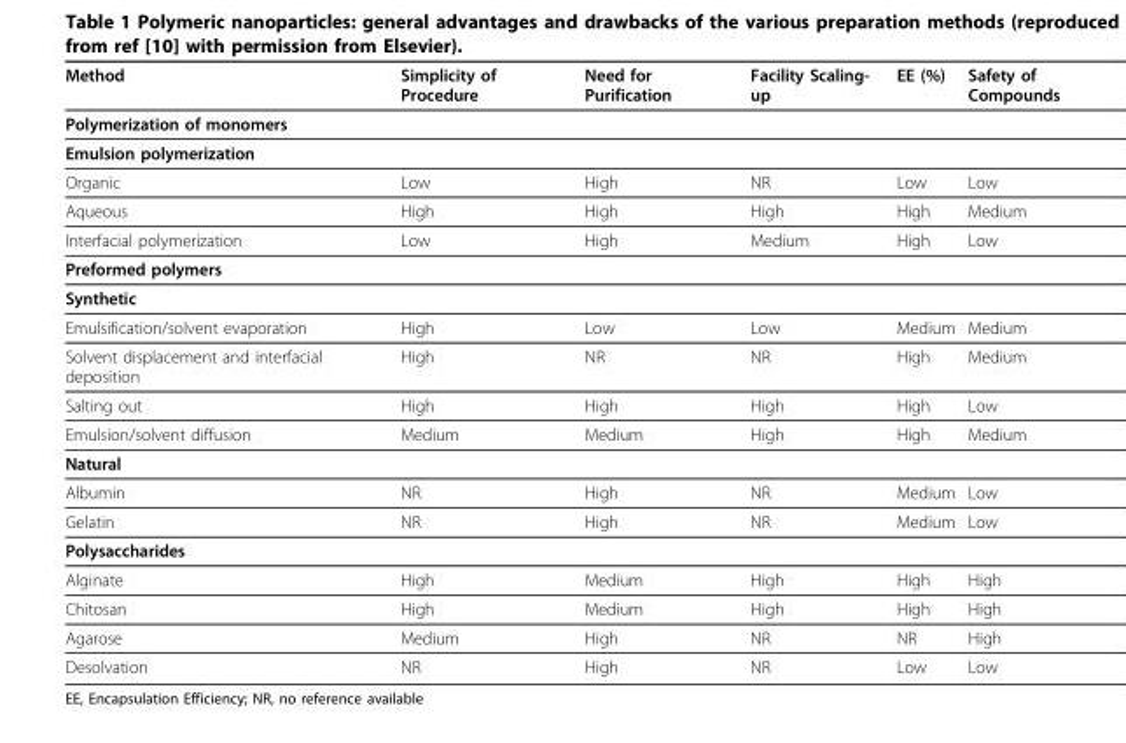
<table><thead><tr><td>Method</td><td>Simplicity of Procedure</td><td>Need for Purification</td><td>Facility Scaling- up</td><td>EE (%)</td><td>Safety of Compounds</td></tr></thead><tbody><tr><td colspan="6">Polymerization of monomers</td></tr><tr><td colspan="6">Emulsion polymerization</td></tr><tr><td>Organic</td><td>Low</td><td>High</td><td>NR</td><td>Low</td><td>Low</td></tr><tr><td>Aqueous</td><td>High</td><td>High</td><td>High</td><td>High</td><td>Medium</td></tr><tr><td>Interfacial polymerization</td><td>Low</td><td>High</td><td>Medium</td><td>High</td><td>Low</td></tr><tr><td colspan="6">Preformed polymers</td></tr><tr><td colspan="6">Synthetic</td></tr><tr><td>Emulsification/solvent evaporation</td><td>High</td><td>Low</td><td>Low</td><td>Medium</td><td>Medium</td></tr><tr><td>Solvent displacement and interfacial deposition</td><td>High</td><td>NR</td><td>NR</td><td>High</td><td>Medium</td></tr><tr><td>Salting out</td><td>High</td><td>High</td><td>High</td><td>High</td><td>Low</td></tr><tr><td>Emulsion/solvent diffusion</td><td>Medium</td><td>Medium</td><td>High</td><td>High</td><td>Medium</td></tr><tr><td colspan="6">Natural</td></tr><tr><td>Albumin</td><td>NR</td><td>High</td><td>NR</td><td>Medium</td><td>Low</td></tr><tr><td>Gelatin</td><td>NR</td><td>High</td><td>NR</td><td>Medium</td><td>Low</td></tr><tr><td colspan="6">Polysaccharides</td></tr><tr><td>Alginate</td><td>High</td><td>Medium</td><td>High</td><td>High</td><td>High</td></tr><tr><td>Chitosan</td><td>High</td><td>Medium</td><td>High</td><td>High</td><td>High</td></tr><tr><td>Agarose</td><td>Medium</td><td>High</td><td>NR</td><td>NR</td><td>High</td></tr><tr><td>Desolvation</td><td>NR</td><td>High</td><td>NR</td><td>Low</td><td>Low</td></tr></tbody></table>